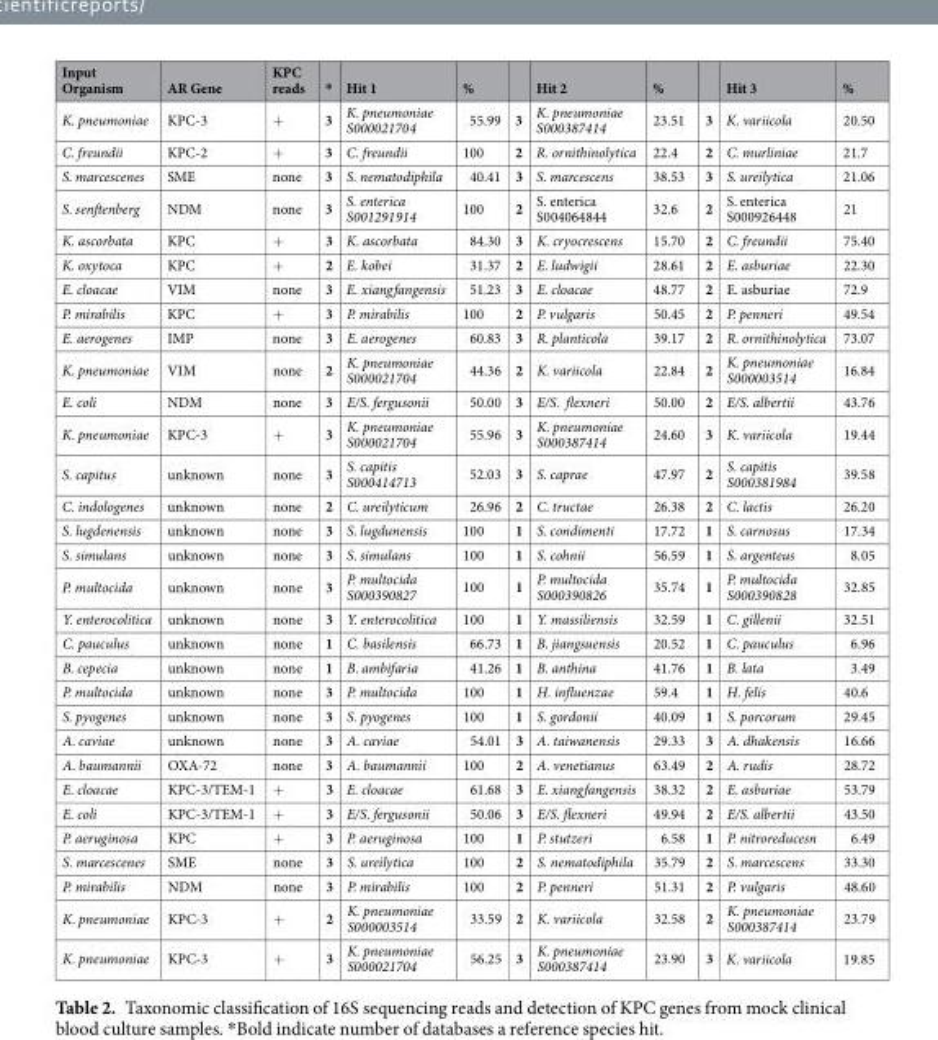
<table><thead><tr><td>Input Organism</td><td>AR Gene</td><td>KPC reads</td><td>*</td><td>Hit 1</td><td>%</td><td></td><td>Hit 2</td><td>%</td><td></td><td>Hit 3</td><td>%</td></tr></thead><tbody><tr><td>K. pneumoniae</td><td>KPC-3</td><td>+</td><td>3</td><td>K. pneumoniae S000021704</td><td>55.99</td><td>3</td><td>K. pneumoniae S000387414</td><td>23.51</td><td>3</td><td>K. variicola</td><td>20.50</td></tr><tr><td>C. freundii</td><td>KPC-2</td><td>+</td><td>3</td><td>C. freundii</td><td>100</td><td>2</td><td>R. ornithinolytica</td><td>22.4</td><td>2</td><td>C. murliniae</td><td>21.7</td></tr><tr><td>S. marcescenes</td><td>SME</td><td>none</td><td>3</td><td>S. nematodiphila</td><td>40.41</td><td>3</td><td>S. marcescens</td><td>38.53</td><td>3</td><td>S. ureilytica</td><td>21.06</td></tr><tr><td>S. senftenberg</td><td>NDM</td><td>none</td><td>3</td><td>S. enterica S001291914</td><td>100</td><td>2</td><td>S. enterica S004064844</td><td>32.6</td><td>2</td><td>S. enterica S000926448</td><td>21</td></tr><tr><td>K. ascorbata</td><td>KPC</td><td>+</td><td>3</td><td>K. ascorbata</td><td>84.30</td><td>3</td><td>K. cryocrescens</td><td>15.70</td><td>2</td><td>C. freundii</td><td>75.40</td></tr><tr><td>K. oxytoca</td><td>KPC</td><td>+</td><td>2</td><td>E. kobei</td><td>31.37</td><td>2</td><td>E. ludwigii</td><td>28.61</td><td>2</td><td>E. asburiae</td><td>22.30</td></tr><tr><td>E. cloacae</td><td>VIM</td><td>none</td><td>3</td><td>E. xiangfangensis</td><td>51.23</td><td>3</td><td>E. cloacae</td><td>48.77</td><td>2</td><td>E. asburiae</td><td>72.9</td></tr><tr><td>P. mirabilis</td><td>KPC</td><td>+</td><td>3</td><td>P. mirabilis</td><td>100</td><td>2</td><td>P. vulgaris</td><td>50.45</td><td>2</td><td>P. penneri</td><td>49.54</td></tr><tr><td>E. aerogenes</td><td>IMP</td><td>none</td><td>3</td><td>E. aerogenes</td><td>60.83</td><td>3</td><td>R. planticola</td><td>39.17</td><td>2</td><td>R. ornithinolytica</td><td>73.07</td></tr><tr><td>K. pneumoniae</td><td>VIM</td><td>none</td><td>2</td><td>K. pneumoniae S000021704</td><td>44.36</td><td>2</td><td>K. variicola</td><td>22.84</td><td>2</td><td>K. pneumoniae S000003514</td><td>16.84</td></tr><tr><td>E. coli</td><td>NDM</td><td>none</td><td>3</td><td>E/S. fergusonii</td><td>50.00</td><td>3</td><td>E/S. flexneri</td><td>50.00</td><td>2</td><td>E/S. albertii</td><td>43.76</td></tr><tr><td>K. pneumoniae</td><td>KPC-3</td><td>+</td><td>3</td><td>K. pneumoniae S000021704</td><td>55.96</td><td>3</td><td>K. pneumoniae S000387414</td><td>24.60</td><td>3</td><td>K. variicola</td><td>19.44</td></tr><tr><td>S. capitus</td><td>unknown</td><td>none</td><td>3</td><td>S. capitis S000414713</td><td>52.03</td><td>3</td><td>S. caprae</td><td>47.97</td><td>2</td><td>S. capitis S000381984</td><td>39.58</td></tr><tr><td>C. indologenes</td><td>unknown</td><td>none</td><td>2</td><td>C. ureilyticum</td><td>26.96</td><td>2</td><td>C. tructae</td><td>26.38</td><td>2</td><td>C. lactis</td><td>26.20</td></tr><tr><td>S. lugdenensis</td><td>unknown</td><td>none</td><td>3</td><td>S. lugdunensis</td><td>100</td><td>1</td><td>S. condimenti</td><td>17.72</td><td>1</td><td>S. carnosus</td><td>17.34</td></tr><tr><td>S. simulans</td><td>unknown</td><td>none</td><td>3</td><td>S. simulans</td><td>100</td><td>1</td><td>S. cohnii</td><td>56.59</td><td>1</td><td>S. argenteus</td><td>8.05</td></tr><tr><td>P. multocida</td><td>unknown</td><td>none</td><td>3</td><td>P. multocida S000390827</td><td>100</td><td>1</td><td>P. multocida S000390826</td><td>35.74</td><td>1</td><td>P. multocida S000390828</td><td>32.85</td></tr><tr><td>Y. enterocolitica</td><td>unknown</td><td>none</td><td>3</td><td>Y. enterocolitica</td><td>100</td><td>1</td><td>Y. massiliensis</td><td>32.59</td><td>1</td><td>C. gillenii</td><td>32.51</td></tr><tr><td>C. pauculus</td><td>unknown</td><td>none</td><td>1</td><td>C. basilensis</td><td>66.73</td><td>1</td><td>B. jiangsuensis</td><td>20.52</td><td>1</td><td>C. pauculus</td><td>6.96</td></tr><tr><td>B. cepecia</td><td>unknown</td><td>none</td><td>1</td><td>B. ambifaria</td><td>41.26</td><td>1</td><td>B. anthina</td><td>41.76</td><td>1</td><td>B. lata</td><td>3.49</td></tr><tr><td>P. multocida</td><td>unknown</td><td>none</td><td>3</td><td>P. multocida</td><td>100</td><td>1</td><td>H. influenzae</td><td>59.4</td><td>1</td><td>H. felis</td><td>40.6</td></tr><tr><td>S. pyogenes</td><td>unknown</td><td>none</td><td>3</td><td>S. pyogenes</td><td>100</td><td>1</td><td>S. gordonii</td><td>40.09</td><td>1</td><td>S. porcorum</td><td>29.45</td></tr><tr><td>A. caviae</td><td>unknown</td><td>none</td><td>3</td><td>A. caviae</td><td>54.01</td><td>3</td><td>A. taiwanensis</td><td>29.33</td><td>3</td><td>A. dhakensis</td><td>16.66</td></tr><tr><td>A. baumannii</td><td>OXA-72</td><td>none</td><td>3</td><td>A. baumannii</td><td>100</td><td>2</td><td>A. venetianus</td><td>63.49</td><td>2</td><td>A. rudis</td><td>28.72</td></tr><tr><td>E. cloacae</td><td>KPC-3/TEM-1</td><td>+</td><td>3</td><td>E. cloacae</td><td>61.68</td><td>3</td><td>E. xiangfangensis</td><td>38.32</td><td>2</td><td>E. asburiae</td><td>53.79</td></tr><tr><td>E. coli</td><td>KPC-3/TEM-1</td><td>+</td><td>3</td><td>E/S. fergusonii</td><td>50.06</td><td>3</td><td>E/S. flexneri</td><td>49.94</td><td>2</td><td>E/S. albertii</td><td>43.50</td></tr><tr><td>P. aeruginosa</td><td>KPC</td><td>+</td><td>3</td><td>P. aeruginosa</td><td>100</td><td>1</td><td>P. stutzeri</td><td>6.58</td><td>1</td><td>P. nitroreducesn</td><td>6.49</td></tr><tr><td>S. marcescenes</td><td>SME</td><td>none</td><td>3</td><td>S. ureilytica</td><td>100</td><td>2</td><td>S. nematodiphila</td><td>35.79</td><td>2</td><td>S. marcescens</td><td>33.30</td></tr><tr><td>P. mirabilis</td><td>NDM</td><td>none</td><td>3</td><td>P. mirabilis</td><td>100</td><td>2</td><td>P. penneri</td><td>51.31</td><td>2</td><td>P. vulgaris</td><td>48.60</td></tr><tr><td>K. pneumoniae</td><td>KPC-3</td><td>+</td><td>2</td><td>K. pneumoniae S000003514</td><td>33.59</td><td>2</td><td>K. variicola</td><td>32.58</td><td>2</td><td>K. pneumoniae S000387414</td><td>23.79</td></tr><tr><td>K. pneumoniae</td><td>KPC-3</td><td>+</td><td>3</td><td>K. pneumoniae S000021704</td><td>56.25</td><td>3</td><td>K. pneumoniae S000387414</td><td>23.90</td><td>3</td><td>K. variicola</td><td>19.85</td></tr></tbody></table>